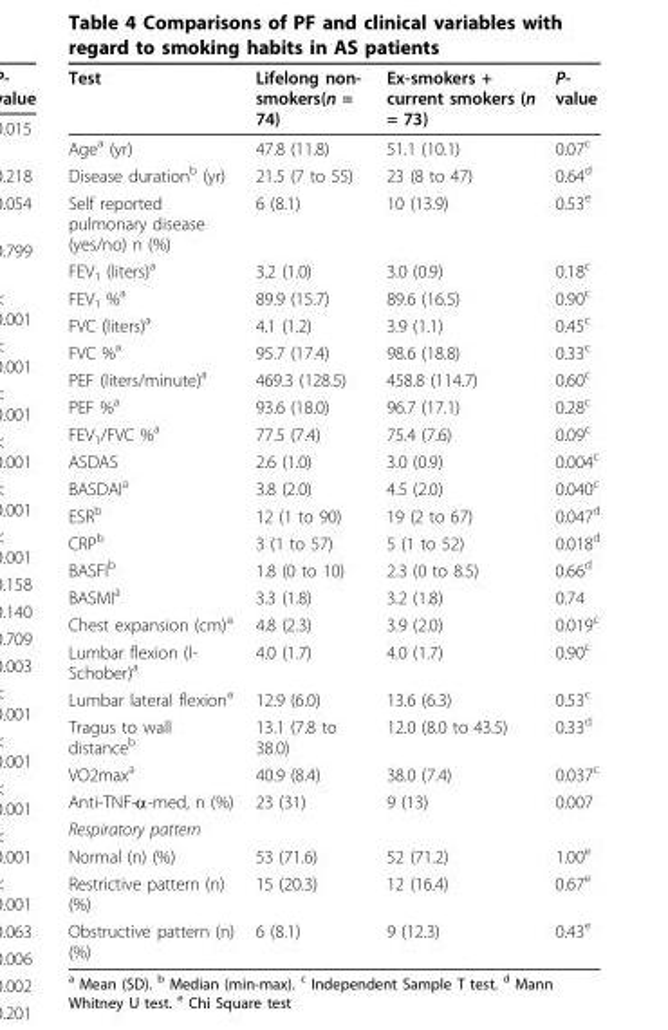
<table><thead><tr><td>Test</td><td>Lifelong non- smokers(n = 74)</td><td>Ex-smokers + current smokers (n = 73)</td><td>P- value</td></tr></thead><tbody><tr><td>Age<sup>a</sup> (yr)</td><td>47.8 (11.8)</td><td>51.1 (10.1)</td><td>0.07<sup>c</sup></td></tr><tr><td>Disease duration<sup>b</sup> (yr)</td><td>21.5 (7 to 55)</td><td>23 (8 to 47)</td><td>0.64<sup>d</sup></td></tr><tr><td>Self reported pulmonary disease (yes/no) n (%)</td><td>6 (8.1)</td><td>10 (13.9)</td><td>0.53<sup>e</sup></td></tr><tr><td>FEV<sub>1</sub> (liters)<sup>a</sup></td><td>3.2 (1.0)</td><td>3.0 (0.9)</td><td>0.18<sup>c</sup></td></tr><tr><td>FEV<sub>1</sub> %<sup>a</sup></td><td>89.9 (15.7)</td><td>89.6 (16.5)</td><td>0.90<sup>c</sup></td></tr><tr><td>FVC (liters)<sup>a</sup></td><td>4.1 (1.2)</td><td>3.9 (1.1)</td><td>0.45<sup>c</sup></td></tr><tr><td>FVC %<sup>a</sup></td><td>95.7 (17.4)</td><td>98.6 (18.8)</td><td>0.33<sup>c</sup></td></tr><tr><td>PEF (liters/minute)<sup>a</sup></td><td>469.3 (128.5)</td><td>458.8 (114.7)</td><td>0.60<sup>c</sup></td></tr><tr><td>PEF %<sup>a</sup></td><td>93.6 (18.0)</td><td>96.7 (17.1)</td><td>0.28<sup>c</sup></td></tr><tr><td>FEV<sub>1</sub>/FVC %<sup>a</sup></td><td>77.5 (7.4)</td><td>75.4 (7.6)</td><td>0.09<sup>c</sup></td></tr><tr><td>ASDAS</td><td>2.6 (1.0)</td><td>3.0 (0.9)</td><td>0.004<sup>c</sup></td></tr><tr><td>BASDAI<sup>a</sup></td><td>3.8 (2.0)</td><td>4.5 (2.0)</td><td>0.040<sup>c</sup></td></tr><tr><td>ESR<sup>b</sup></td><td>12 (1 to 90)</td><td>19 (2 to 67)</td><td>0.047<sup>d</sup></td></tr><tr><td>CRP<sup>b</sup></td><td>3 (1 to 57)</td><td>5 (1 to 52)</td><td>0.018<sup>d</sup></td></tr><tr><td>BASFI<sup>b</sup></td><td>1.8 (0 to 10)</td><td>2.3 (0 to 8.5)</td><td>0.66<sup>d</sup></td></tr><tr><td>BASMI<sup>a</sup></td><td>3.3 (1.8)</td><td>3.2 (1.8)</td><td>0.74</td></tr><tr><td>Chest expansion (cm)<sup>a</sup></td><td>4.8 (2.3)</td><td>3.9 (2.0)</td><td>0.019<sup>c</sup></td></tr><tr><td>Lumbar flexion (l- Schober)<sup>a</sup></td><td>4.0 (1.7)</td><td>4.0 (1.7)</td><td>0.90<sup>c</sup></td></tr><tr><td>Lumbar lateral flexion<sup>a</sup></td><td>12.9 (6.0)</td><td>13.6 (6.3)</td><td>0.53<sup>c</sup></td></tr><tr><td>Tragus to wall distance<sup>b</sup></td><td>13.1 (7.8 to 38.0)</td><td>12.0 (8.0 to 43.5)</td><td>0.33<sup>d</sup></td></tr><tr><td>VO2max<sup>a</sup></td><td>40.9 (8.4)</td><td>38.0 (7.4)</td><td>0.037<sup>c</sup></td></tr><tr><td>Anti-TNF-α-med, n (%)</td><td>23 (31)</td><td>9 (13)</td><td>0.007</td></tr><tr><td colspan="4">Respiratory pattern</td></tr><tr><td>Normal (n) (%)</td><td>53 (71.6)</td><td>52 (71.2)</td><td>1.00<sup>e</sup></td></tr><tr><td>Restrictive pattern (n) (%)</td><td>15 (20.3)</td><td>12 (16.4)</td><td>0.67<sup>e</sup></td></tr><tr><td>Obstructive pattern (n) (%)</td><td>6 (8.1)</td><td>9 (12.3)</td><td>0.43<sup>e</sup></td></tr></tbody></table>